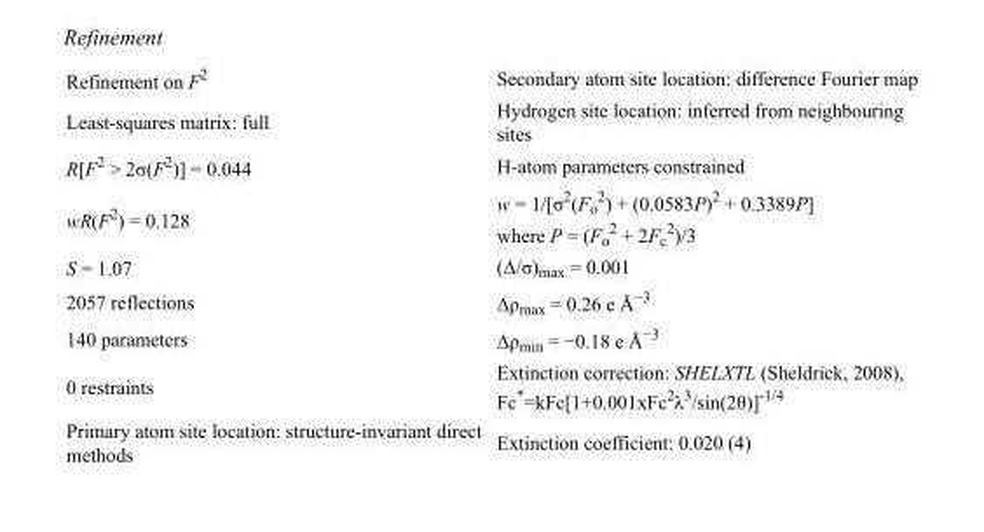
<table><tbody><tr><td>Refinement on F<sup>2</sup></td><td>Secondary atom site location: difference Fourier map</td></tr><tr><td>Least-squares matrix: full</td><td>Hydrogen site location: inferred from neighbouring sites</td></tr><tr><td>R[F<sup>2</sup> &gt; 2σ(F<sup>2</sup>)] = 0.044</td><td>H-atom parameters constrained</td></tr><tr><td>wR(F<sup>2</sup>) = 0.128</td><td>w = 1/[σ<sup>2</sup>(F<sub>o</sub> <sup>2</sup>) + (0.0583P)<sup>2</sup> + 0.3389P] where P = (F<sub>o</sub> <sup>2</sup> + 2F<sub>c</sub> <sup>2</sup>)/3</td></tr><tr><td>S = 1.07</td><td>(Δ/σ)<sub>max</sub> = 0.001</td></tr><tr><td>2057 reflections</td><td>Δρ<sub>max</sub> = 0.26 e Å<sup>−3</sup></td></tr><tr><td>140 parameters</td><td>Δρ<sub>min</sub> = −0.18 e Å<sup>−3</sup></td></tr><tr><td>0 restraints</td><td>Extinction correction: SHELXTL (Sheldrick, 2008), Fc*=kFc[1+0.001xFc<sup>2</sup>λ<sup>3</sup>/sin(2θ)]<sup>-1/4</sup></td></tr><tr><td>Primary atom site location: structure-invariant direct methods</td><td>Extinction coefficient: 0.020 (4)</td></tr></tbody></table>